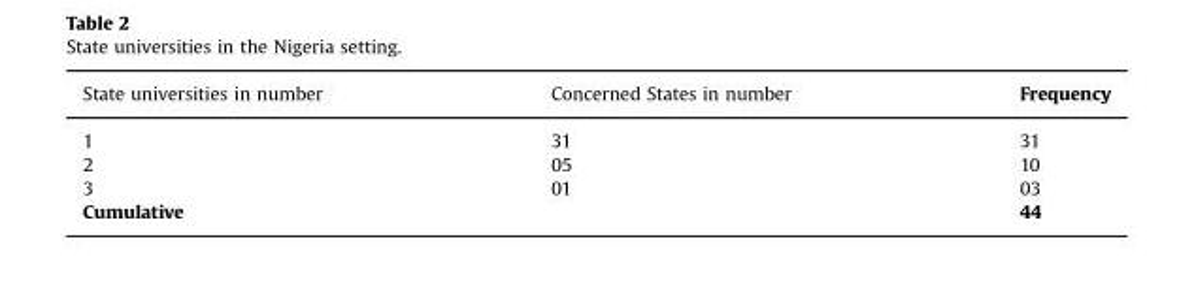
<table><thead><tr><td>State universities in number</td><td>Concerned States in number</td><td>Frequency</td></tr></thead><tbody><tr><td>1</td><td>31</td><td>31</td></tr><tr><td>2</td><td>05</td><td>10</td></tr><tr><td>3</td><td>01</td><td>03</td></tr><tr><td colspan="2">Cumulative</td><td>44</td></tr></tbody></table>